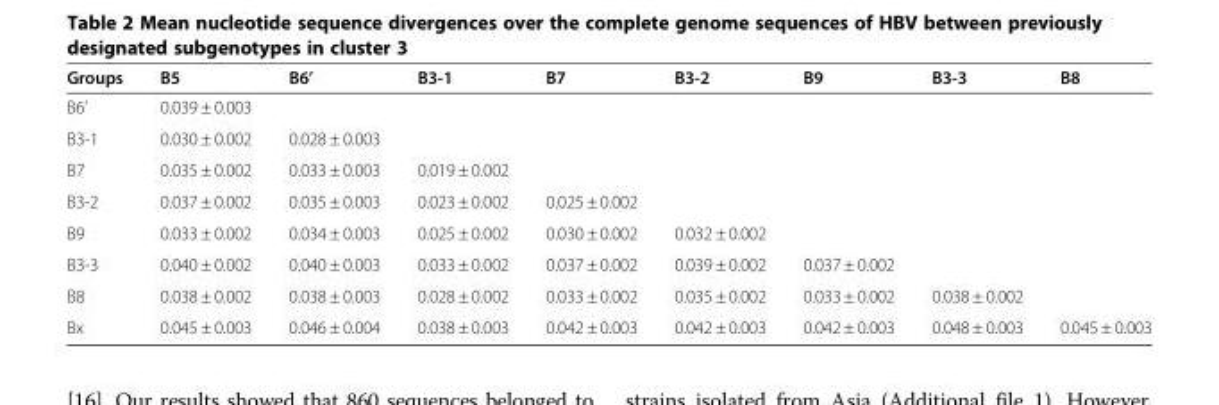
<table><thead><tr><td>Groups</td><td>B5</td><td>B6’</td><td>B3-1</td><td>B7</td><td>B3-2</td><td>B9</td><td>B3-3</td><td>B8</td></tr></thead><tbody><tr><td>B6’</td><td>0.039 ± 0.003</td><td></td><td></td><td></td><td></td><td></td><td></td><td></td></tr><tr><td>B3-1</td><td>0.030 ± 0.002</td><td>0.028 ± 0.003</td><td></td><td></td><td></td><td></td><td></td><td></td></tr><tr><td>B7</td><td>0.035 ± 0.002</td><td>0.033 ± 0.003</td><td>0.019 ± 0.002</td><td></td><td></td><td></td><td></td><td></td></tr><tr><td>B3-2</td><td>0.037 ± 0.002</td><td>0.035 ± 0.003</td><td>0.023 ± 0.002</td><td>0.025 ± 0.002</td><td></td><td></td><td></td><td></td></tr><tr><td>B9</td><td>0.033 ± 0.002</td><td>0.034 ± 0.003</td><td>0.025 ± 0.002</td><td>0.030 ± 0.002</td><td>0.032 ± 0.002</td><td></td><td></td><td></td></tr><tr><td>B3-3</td><td>0.040 ± 0.002</td><td>0.040 ± 0.003</td><td>0.033 ± 0.002</td><td>0.037 ± 0.002</td><td>0.039 ± 0.002</td><td>0.037 ± 0.002</td><td></td><td></td></tr><tr><td>B8</td><td>0.038 ± 0.002</td><td>0.038 ± 0.003</td><td>0.028 ± 0.002</td><td>0.033 ± 0.002</td><td>0.035 ± 0.002</td><td>0.033 ± 0.002</td><td>0.038 ± 0.002</td><td></td></tr><tr><td>Bx</td><td>0.045 ± 0.003</td><td>0.046 ± 0.004</td><td>0.038 ± 0.003</td><td>0.042 ± 0.003</td><td>0.042 ± 0.003</td><td>0.042 ± 0.003</td><td>0.048 ± 0.003</td><td>0.045 ± 0.003</td></tr></tbody></table>